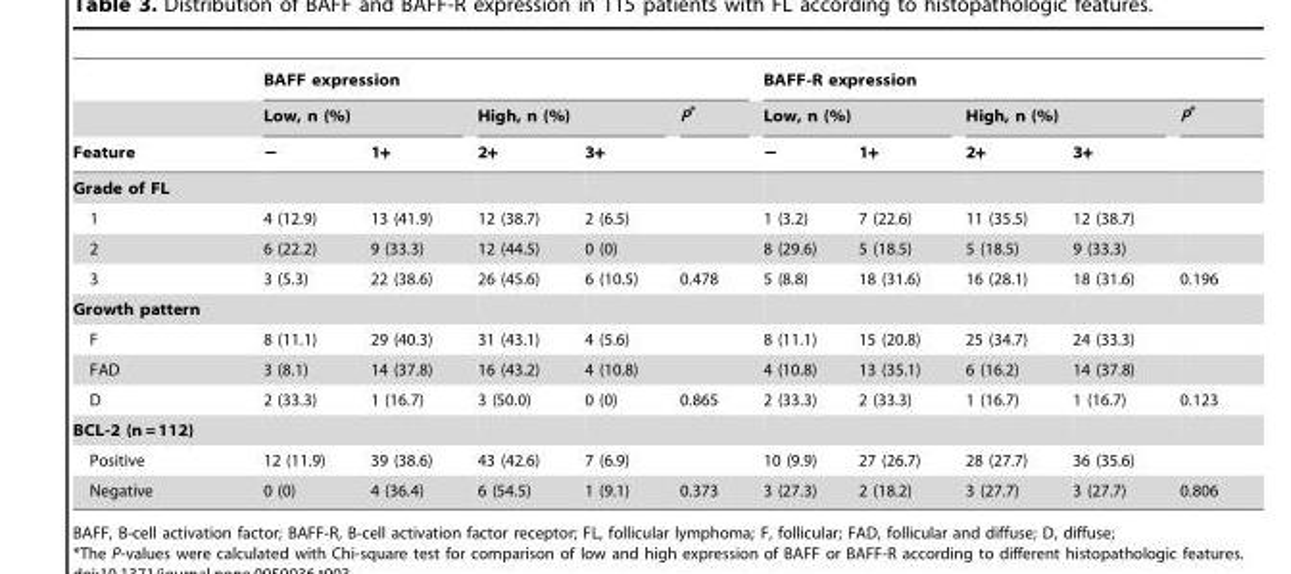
<table><thead><tr><td rowspan="3">Feature</td><td colspan="5">BAFF expression</td><td colspan="5">BAFF-R expression</td></tr><tr><td colspan="2">Low, n (%)</td><td colspan="2">High, n (%)</td><td rowspan="2">P*</td><td colspan="2">Low, n (%)</td><td colspan="2">High, n (%)</td><td rowspan="2">P*</td></tr><tr><td>−</td><td>1+</td><td>2+</td><td>3+</td><td>−</td><td>1+</td><td>2+</td><td>3+</td></tr></thead><tbody><tr><td colspan="11">Grade of FL</td></tr><tr><td>1</td><td>4 (12.9)</td><td>13 (41.9)</td><td>12 (38.7)</td><td>2 (6.5)</td><td></td><td>1 (3.2)</td><td>7 (22.6)</td><td>11 (35.5)</td><td>12 (38.7)</td><td></td></tr><tr><td>2</td><td>6 (22.2)</td><td>9 (33.3)</td><td>12 (44.5)</td><td>0 (0)</td><td></td><td>8 (29.6)</td><td>5 (18.5)</td><td>5 (18.5)</td><td>9 (33.3)</td><td></td></tr><tr><td>3</td><td>3 (5.3)</td><td>22 (38.6)</td><td>26 (45.6)</td><td>6 (10.5)</td><td>0.478</td><td>5 (8.8)</td><td>18 (31.6)</td><td>16 (28.1)</td><td>18 (31.6)</td><td>0.196</td></tr><tr><td colspan="11">Growth pattern</td></tr><tr><td>F</td><td>8 (11.1)</td><td>29 (40.3)</td><td>31 (43.1)</td><td>4 (5.6)</td><td></td><td>8 (11.1)</td><td>15 (20.8)</td><td>25 (34.7)</td><td>24 (33.3)</td><td></td></tr><tr><td>FAD</td><td>3 (8.1)</td><td>14 (37.8)</td><td>16 (43.2)</td><td>4 (10.8)</td><td></td><td>4 (10.8)</td><td>13 (35.1)</td><td>6 (16.2)</td><td>14 (37.8)</td><td></td></tr><tr><td>D</td><td>2 (33.3)</td><td>1 (16.7)</td><td>3 (50.0)</td><td>0 (0)</td><td>0.865</td><td>2 (33.3)</td><td>2 (33.3)</td><td>1 (16.7)</td><td>1 (16.7)</td><td>0.123</td></tr><tr><td colspan="11">BCL-2 (n = 112)</td></tr><tr><td>Positive</td><td>12 (11.9)</td><td>39 (38.6)</td><td>43 (42.6)</td><td>7 (6.9)</td><td></td><td>10 (9.9)</td><td>27 (26.7)</td><td>28 (27.7)</td><td>36 (35.6)</td><td></td></tr><tr><td>Negative</td><td>0 (0)</td><td>4 (36.4)</td><td>6 (54.5)</td><td>1 (9.1)</td><td>0.373</td><td>3 (27.3)</td><td>2 (18.2)</td><td>3 (27.7)</td><td>3 (27.7)</td><td>0.806</td></tr></tbody></table>